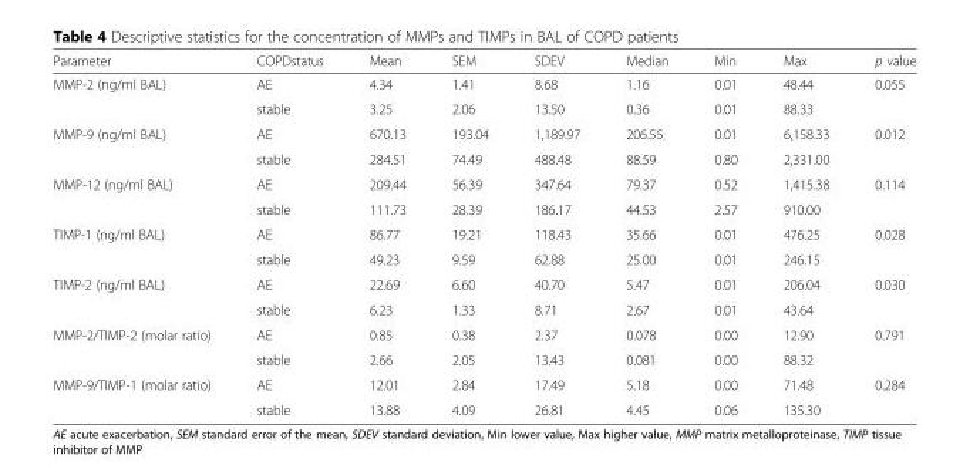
<table><thead><tr><td>Parameter</td><td>COPDstatus</td><td>Mean</td><td>SEM</td><td>SDEV</td><td>Median</td><td>Min</td><td>Max</td><td>p value</td></tr></thead><tbody><tr><td rowspan="2">MMP-2 (ng/ml BAL)</td><td>AE</td><td>4.34</td><td>1.41</td><td>8.68</td><td>1.16</td><td>0.01</td><td>48.44</td><td rowspan="2">0.055</td></tr><tr><td>stable</td><td>3.25</td><td>2.06</td><td>13.50</td><td>0.36</td><td>0.01</td><td>88.33</td></tr><tr><td rowspan="2">MMP-9 (ng/ml BAL)</td><td>AE</td><td>670.13</td><td>193.04</td><td>1,189.97</td><td>206.55</td><td>0.01</td><td>6,158.33</td><td rowspan="2">0.012</td></tr><tr><td>stable</td><td>284.51</td><td>74.49</td><td>488.48</td><td>88.59</td><td>0.80</td><td>2,331.00</td></tr><tr><td rowspan="2">MMP-12 (ng/ml BAL)</td><td>AE</td><td>209.44</td><td>56.39</td><td>347.64</td><td>79.37</td><td>0.52</td><td>1,415.38</td><td rowspan="2">0.114</td></tr><tr><td>stable</td><td>111.73</td><td>28.39</td><td>186.17</td><td>44.53</td><td>2.57</td><td>910.00</td></tr><tr><td rowspan="2">TIMP-1 (ng/ml BAL)</td><td>AE</td><td>86.77</td><td>19.21</td><td>118.43</td><td>35.66</td><td>0.01</td><td>476.25</td><td rowspan="2">0.028</td></tr><tr><td>stable</td><td>49.23</td><td>9.59</td><td>62.88</td><td>25.00</td><td>0.01</td><td>246.15</td></tr><tr><td rowspan="2">TIMP-2 (ng/ml BAL)</td><td>AE</td><td>22.69</td><td>6.60</td><td>40.70</td><td>5.47</td><td>0.01</td><td>206.04</td><td rowspan="2">0.030</td></tr><tr><td>stable</td><td>6.23</td><td>1.33</td><td>8.71</td><td>2.67</td><td>0.01</td><td>43.64</td></tr><tr><td rowspan="2">MMP-2/TIMP-2 (molar ratio)</td><td>AE</td><td>0.85</td><td>0.38</td><td>2.37</td><td>0.078</td><td>0.00</td><td>12.90</td><td rowspan="2">0.791</td></tr><tr><td>stable</td><td>2.66</td><td>2.05</td><td>13.43</td><td>0.081</td><td>0.00</td><td>88.32</td></tr><tr><td rowspan="2">MMP-9/TIMP-1 (molar ratio)</td><td>AE</td><td>12.01</td><td>2.84</td><td>17.49</td><td>5.18</td><td>0.00</td><td>71.48</td><td rowspan="2">0.284</td></tr><tr><td>stable</td><td>13.88</td><td>4.09</td><td>26.81</td><td>4.45</td><td>0.06</td><td>135.30</td></tr></tbody></table>